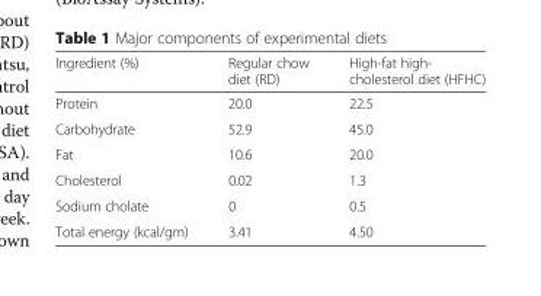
<table><thead><tr><td>Ingredient (%)</td><td>Regular chow diet (RD)</td><td>High-fat high- cholesterol diet (HFHC)</td></tr></thead><tbody><tr><td>Protein</td><td>20.0</td><td>22.5</td></tr><tr><td>Carbohydrate</td><td>52.9</td><td>45.0</td></tr><tr><td>Fat</td><td>10.6</td><td>20.0</td></tr><tr><td>Cholesterol</td><td>0.02</td><td>1.3</td></tr><tr><td>Sodium cholate</td><td>0</td><td>0.5</td></tr><tr><td>Total energy (kcal/gm)</td><td>3.41</td><td>4.50</td></tr></tbody></table>